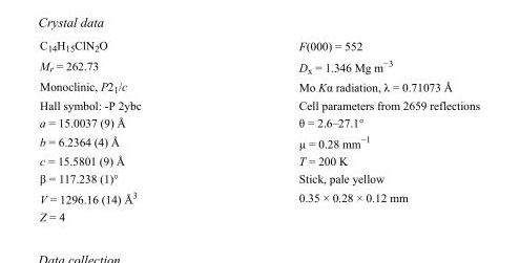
<table><tbody><tr><td>C<sub>14</sub>H<sub>15</sub>ClN<sub>2</sub>O</td><td>F(000) = 552</td></tr><tr><td>M<sub>r</sub> = 262.73</td><td>D<sub>x</sub> = 1.346 Mg m<sup>−3</sup></td></tr><tr><td>Monoclinic, P2<sub>1</sub>/c</td><td>Mo Kα radiation, λ = 0.71073 Å</td></tr><tr><td>Hall symbol: -P 2ybc</td><td>Cell parameters from 2659 reflections</td></tr><tr><td>a = 15.0037 (9) Å</td><td>θ = 2.6–27.1°</td></tr><tr><td>b = 6.2364 (4) Å</td><td>µ = 0.28 mm<sup>−1</sup></td></tr><tr><td>c = 15.5801 (9) Å</td><td>T = 200 K</td></tr><tr><td>β = 117.238 (1)°</td><td>Stick, pale yellow</td></tr><tr><td>V = 1296.16 (14) Å<sup>3</sup></td><td>0.35 × 0.28 × 0.12 mm</td></tr><tr><td>Z = 4</td><td></td></tr></tbody></table>